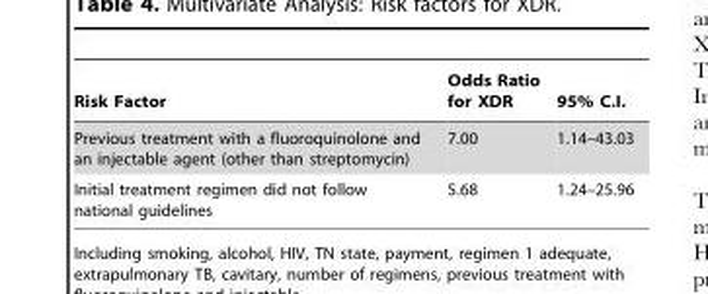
<table><thead><tr><td>Risk Factor</td><td>Odds Ratio for XDR</td><td>95% C.I.</td></tr></thead><tbody><tr><td>Previous treatment with a fluoroquinolone and an injectable agent (other than streptomycin)</td><td>7.00</td><td>1.14–43.03</td></tr><tr><td>Initial treatment regimen did not follow national guidelines</td><td>5.68</td><td>1.24–25.96</td></tr></tbody></table>